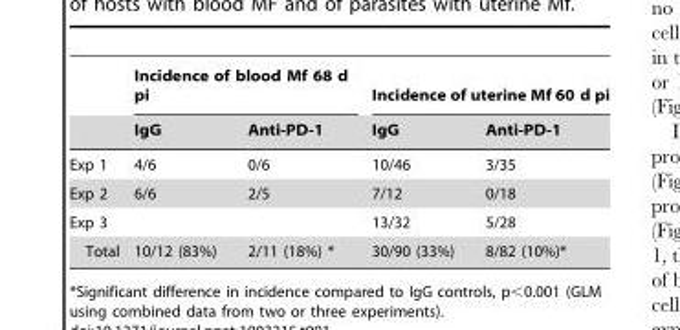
<table><thead><tr><td rowspan="2"></td><td colspan="2">Incidence of blood Mf 68 d pi</td><td colspan="2">Incidence of uterine Mf 60 d pi</td></tr><tr><td>IgG</td><td>Anti-PD-1</td><td>IgG</td><td>Anti-PD-1</td></tr></thead><tbody><tr><td>Exp 1</td><td>4/6</td><td>0/6</td><td>10/46</td><td>3/35</td></tr><tr><td>Exp 2</td><td>6/6</td><td>2/5</td><td>7/12</td><td>0/18</td></tr><tr><td>Exp 3</td><td></td><td></td><td>13/32</td><td>5/28</td></tr><tr><td>Total</td><td>10/12 (83%)</td><td>2/11 (18%) *</td><td>30/90 (33%)</td><td>8/82 (10%)*</td></tr></tbody></table>